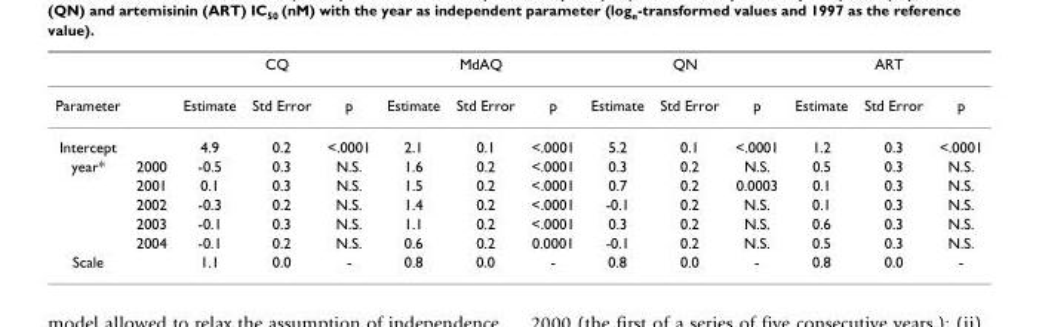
<table><thead><tr><td rowspan="2">Parameter</td><td rowspan="2"></td><td colspan="3">CQ</td><td colspan="3">MdAQ</td><td colspan="3">QN</td><td colspan="3">ART</td></tr><tr><td>Estimate</td><td>Std Error</td><td>p</td><td>Estimate</td><td>Std Error</td><td>p</td><td>Estimate</td><td>Std Error</td><td>p</td><td>Estimate</td><td>Std Error</td><td>p</td></tr></thead><tbody><tr><td>Intercept</td><td></td><td>4.9</td><td>0.2</td><td>&lt;.0001</td><td>2.1</td><td>0.1</td><td>&lt;.0001</td><td>5.2</td><td>0.1</td><td>&lt;.0001</td><td>1.2</td><td>0.3</td><td>&lt;.0001</td></tr><tr><td rowspan="5">year*</td><td>2000</td><td>-0.5</td><td>0.3</td><td>N.S.</td><td>1.6</td><td>0.2</td><td>&lt;.0001</td><td>0.3</td><td>0.2</td><td>N.S.</td><td>0.5</td><td>0.3</td><td>N.S.</td></tr><tr><td>2001</td><td>0.1</td><td>0.3</td><td>N.S.</td><td>1.5</td><td>0.2</td><td>&lt;.0001</td><td>0.7</td><td>0.2</td><td>0.0003</td><td>0.1</td><td>0.3</td><td>N.S.</td></tr><tr><td>2002</td><td>-0.3</td><td>0.2</td><td>N.S.</td><td>1.4</td><td>0.2</td><td>&lt;.0001</td><td>-0.1</td><td>0.2</td><td>N.S.</td><td>0.1</td><td>0.3</td><td>N.S.</td></tr><tr><td>2003</td><td>-0.1</td><td>0.3</td><td>N.S.</td><td>1.1</td><td>0.2</td><td>&lt;.0001</td><td>0.3</td><td>0.2</td><td>N.S.</td><td>0.6</td><td>0.3</td><td>N.S.</td></tr><tr><td>2004</td><td>-0.1</td><td>0.2</td><td>N.S.</td><td>0.6</td><td>0.2</td><td>0.0001</td><td>-0.1</td><td>0.2</td><td>N.S.</td><td>0.5</td><td>0.3</td><td>N.S.</td></tr><tr><td>Scale</td><td></td><td>1.1</td><td>0.0</td><td>-</td><td>0.8</td><td>0.0</td><td>-</td><td>0.8</td><td>0.0</td><td>-</td><td>0.8</td><td>0.0</td><td>-</td></tr></tbody></table>